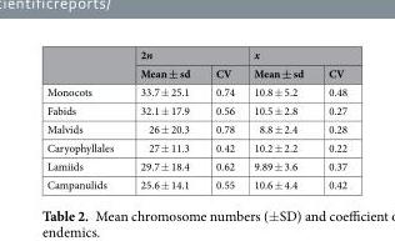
<table><thead><tr><td rowspan="2"></td><td colspan="2">2n</td><td colspan="2">x</td></tr><tr><td>Mean ± sd</td><td>CV</td><td>Mean ± sd</td><td>CV</td></tr></thead><tbody><tr><td>Monocots</td><td>33.7 ± 25.1</td><td>0.74</td><td>10.8 ± 5.2</td><td>0.48</td></tr><tr><td>Fabids</td><td>32.1 ± 17.9</td><td>0.56</td><td>10.5 ± 2.8</td><td>0.27</td></tr><tr><td>Malvids</td><td>26 ± 20.3</td><td>0.78</td><td>8.8 ± 2.4</td><td>0.28</td></tr><tr><td>Caryophyllales</td><td>27 ± 11.3</td><td>0.42</td><td>10.2 ± 2.2</td><td>0.22</td></tr><tr><td>Lamiids</td><td>29.7 ± 18.4</td><td>0.62</td><td>9.89 ± 3.6</td><td>0.37</td></tr><tr><td>Campanulids</td><td>25.6 ± 14.1</td><td>0.55</td><td>10.6 ± 4.4</td><td>0.42</td></tr></tbody></table>